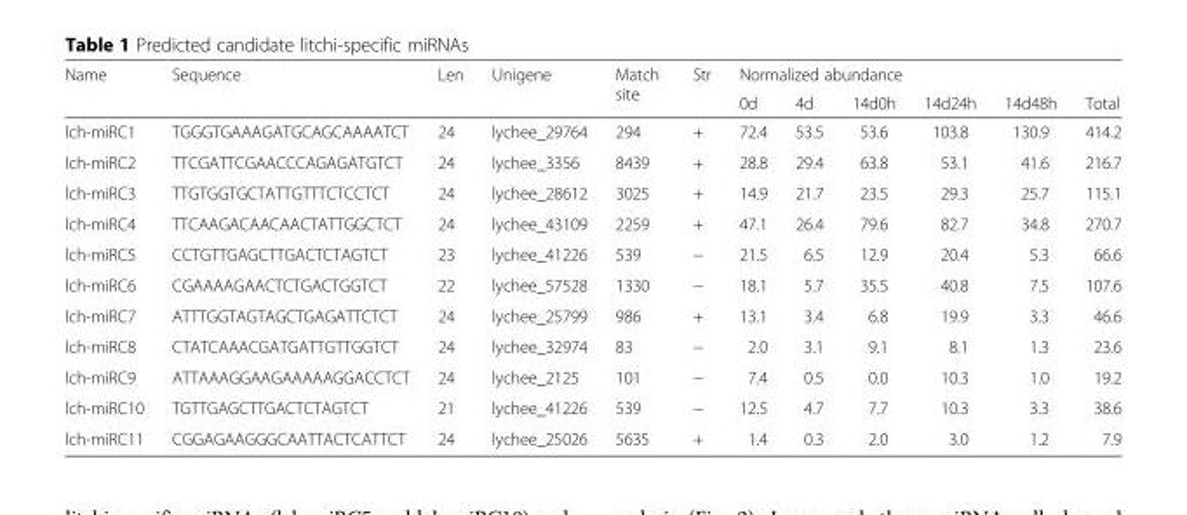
<table><thead><tr><td rowspan="2">Name</td><td rowspan="2">Sequence</td><td rowspan="2">Len</td><td rowspan="2">Unigene</td><td rowspan="2">Match site</td><td rowspan="2">Str</td><td colspan="6">Normalized abundance</td></tr><tr><td>0d</td><td>4d</td><td>14d0h</td><td>14d24h</td><td>14d48h</td><td>Total</td></tr></thead><tbody><tr><td>lch-miRC1</td><td>TGGGTGAAAGATGCAGCAAAATCT</td><td>24</td><td>lychee_29764</td><td>294</td><td>+</td><td>72.4</td><td>53.5</td><td>53.6</td><td>103.8</td><td>130.9</td><td>414.2</td></tr><tr><td>lch-miRC2</td><td>TTCGATTCGAACCCAGAGATGTCT</td><td>24</td><td>lychee_3356</td><td>8439</td><td>+</td><td>28.8</td><td>29.4</td><td>63.8</td><td>53.1</td><td>41.6</td><td>216.7</td></tr><tr><td>lch-miRC3</td><td>TTGTGGTGCTATTGTTTCTCCTCT</td><td>24</td><td>lychee_28612</td><td>3025</td><td>+</td><td>14.9</td><td>21.7</td><td>23.5</td><td>29.3</td><td>25.7</td><td>115.1</td></tr><tr><td>lch-miRC4</td><td>TTCAAGACAACAACTATTGGCTCT</td><td>24</td><td>lychee_43109</td><td>2259</td><td>+</td><td>47.1</td><td>26.4</td><td>79.6</td><td>82.7</td><td>34.8</td><td>270.7</td></tr><tr><td>lch-miRC5</td><td>CCTGTTGAGCTTGACTCTAGTCT</td><td>23</td><td>lychee_41226</td><td>539</td><td>−</td><td>21.5</td><td>6.5</td><td>12.9</td><td>20.4</td><td>5.3</td><td>66.6</td></tr><tr><td>lch-miRC6</td><td>CGAAAAGAACTCTGACTGGTCT</td><td>22</td><td>lychee_57528</td><td>1330</td><td>−</td><td>18.1</td><td>5.7</td><td>35.5</td><td>40.8</td><td>7.5</td><td>107.6</td></tr><tr><td>lch-miRC7</td><td>ATTTGGTAGTAGCTGAGATTCTCT</td><td>24</td><td>lychee_25799</td><td>986</td><td>+</td><td>13.1</td><td>3.4</td><td>6.8</td><td>19.9</td><td>3.3</td><td>46.6</td></tr><tr><td>lch-miRC8</td><td>CTATCAAACGATGATTGTTGGTCT</td><td>24</td><td>lychee_32974</td><td>83</td><td>−</td><td>2.0</td><td>3.1</td><td>9.1</td><td>8.1</td><td>1.3</td><td>23.6</td></tr><tr><td>lch-miRC9</td><td>ATTAAAGGAAGAAAAAGGACCTCT</td><td>24</td><td>lychee_2125</td><td>101</td><td>−</td><td>7.4</td><td>0.5</td><td>0.0</td><td>10.3</td><td>1.0</td><td>19.2</td></tr><tr><td>lch-miRC10</td><td>TGTTGAGCTTGACTCTAGTCT</td><td>21</td><td>lychee_41226</td><td>539</td><td>−</td><td>12.5</td><td>4.7</td><td>7.7</td><td>10.3</td><td>3.3</td><td>38.6</td></tr><tr><td>lch-miRC11</td><td>CGGAGAAGGGCAATTACTCATTCT</td><td>24</td><td>lychee_25026</td><td>5635</td><td>+</td><td>1.4</td><td>0.3</td><td>2.0</td><td>3.0</td><td>1.2</td><td>7.9</td></tr></tbody></table>